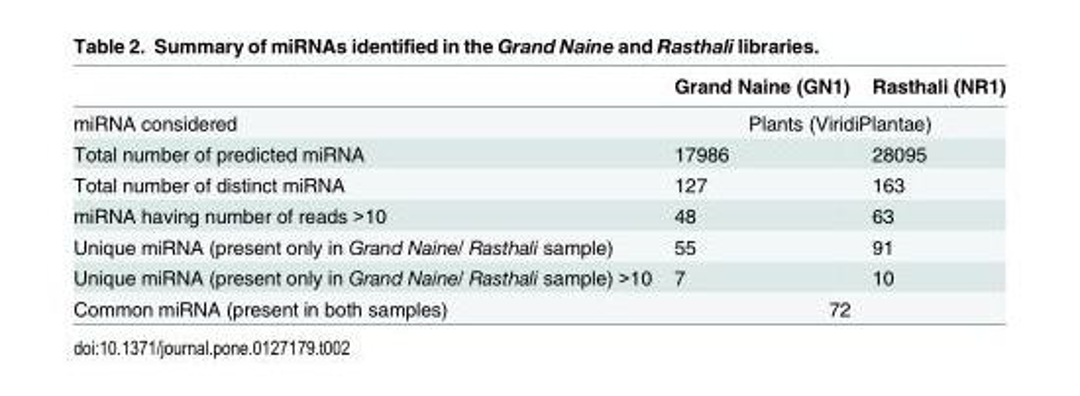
<table><thead><tr><td></td><td>Grand Naine (GN1)</td><td>Rasthali (NR1)</td></tr></thead><tbody><tr><td>miRNA considered</td><td colspan="2">Plants (ViridiPlantae)</td></tr><tr><td>Total number of predicted miRNA</td><td>17986</td><td>28095</td></tr><tr><td>Total number of distinct miRNA</td><td>127</td><td>163</td></tr><tr><td>miRNA having number of reads &gt;10</td><td>48</td><td>63</td></tr><tr><td>Unique miRNA (present only in Grand Naine/ Rasthali sample)</td><td>55</td><td>91</td></tr><tr><td>Unique miRNA (present only in Grand Naine/ Rasthali sample) &gt;10</td><td>7</td><td>10</td></tr><tr><td>Common miRNA (present in both samples)</td><td colspan="2">72</td></tr></tbody></table>